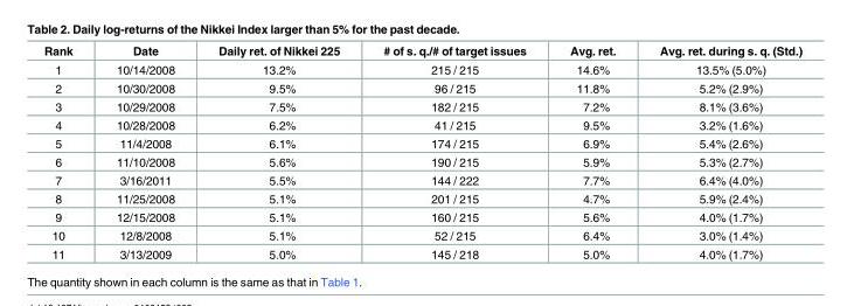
<table><thead><tr><td>Rank</td><td>Date</td><td>Daily ret. of Nikkei 225</td><td># of s. q./# of target issues</td><td>Avg. ret.</td><td>Avg. ret. during s. q. (Std.)</td></tr></thead><tbody><tr><td>1</td><td>10/14/2008</td><td>13.2%</td><td>215 / 215</td><td>14.6%</td><td>13.5% (5.0%)</td></tr><tr><td>2</td><td>10/30/2008</td><td>9.5%</td><td>96 / 215</td><td>11.8%</td><td>5.2% (2.9%)</td></tr><tr><td>3</td><td>10/29/2008</td><td>7.5%</td><td>182 / 215</td><td>7.2%</td><td>8.1% (3.6%)</td></tr><tr><td>4</td><td>10/28/2008</td><td>6.2%</td><td>41 / 215</td><td>9.5%</td><td>3.2% (1.6%)</td></tr><tr><td>5</td><td>11/4/2008</td><td>6.1%</td><td>174 / 215</td><td>6.9%</td><td>5.4% (2.6%)</td></tr><tr><td>6</td><td>11/10/2008</td><td>5.6%</td><td>190 / 215</td><td>5.9%</td><td>5.3% (2.7%)</td></tr><tr><td>7</td><td>3/16/2011</td><td>5.5%</td><td>144 / 222</td><td>7.7%</td><td>6.4% (4.0%)</td></tr><tr><td>8</td><td>11/25/2008</td><td>5.1%</td><td>201 / 215</td><td>4.7%</td><td>5.9% (2.4%)</td></tr><tr><td>9</td><td>12/15/2008</td><td>5.1%</td><td>160 / 215</td><td>5.6%</td><td>4.0% (1.7%)</td></tr><tr><td>10</td><td>12/8/2008</td><td>5.1%</td><td>52 / 215</td><td>6.4%</td><td>3.0% (1.4%)</td></tr><tr><td>11</td><td>3/13/2009</td><td>5.0%</td><td>145 / 218</td><td>5.0%</td><td>4.0% (1.7%)</td></tr></tbody></table>